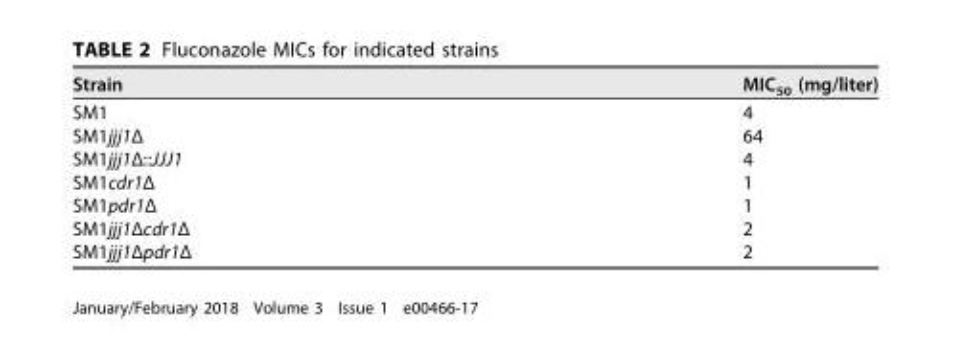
<table><thead><tr><td>Strain</td><td>MIC<sub>50</sub> (mg/liter)</td></tr></thead><tbody><tr><td>SM1</td><td>4</td></tr><tr><td>SM1jjj1Δ</td><td>64</td></tr><tr><td>SM1jjj1Δ::JJJ1</td><td>4</td></tr><tr><td>SM1cdr1Δ</td><td>1</td></tr><tr><td>SM1pdr1Δ</td><td>1</td></tr><tr><td>SM1jjj1Δcdr1Δ</td><td>2</td></tr><tr><td>SM1jjj1Δpdr1Δ</td><td>2</td></tr></tbody></table>